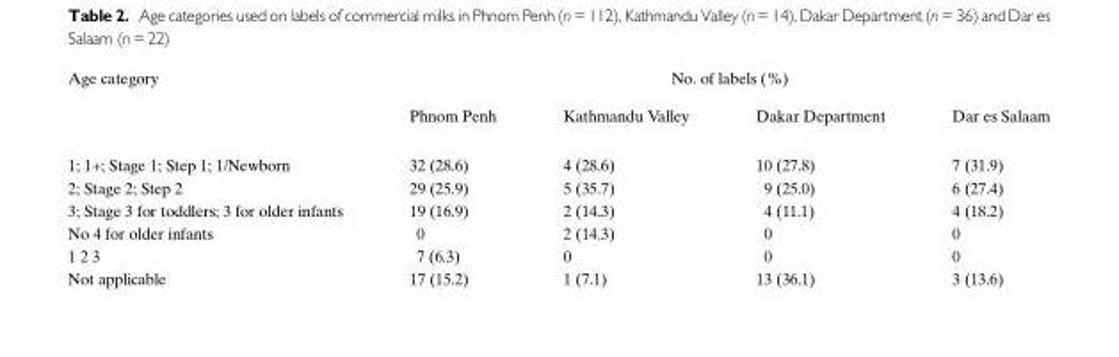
<table><thead><tr><td rowspan="2">Age category</td><td colspan="4">No. of labels (%)</td></tr><tr><td>Phnom Penh</td><td>Kathmandu Valley</td><td>Dakar Department</td><td>Dar es Salaam</td></tr></thead><tbody><tr><td>1; 1+; Stage 1; Step 1; 1/Newborn</td><td>32 (28.6)</td><td>4 (28.6)</td><td>10 (27.8)</td><td>7 (31.9)</td></tr><tr><td>2; Stage 2; Step 2</td><td>29 (25.9)</td><td>5 (35.7)</td><td>9 (25.0)</td><td>6 (27.4)</td></tr><tr><td>3; Stage 3 for toddlers; 3 for older infants</td><td>19 (16.9)</td><td>2 (14.3)</td><td>4 (11.1)</td><td>4 (18.2)</td></tr><tr><td>No 4 for older infants</td><td>0</td><td>2 (14.3)</td><td>0</td><td>0</td></tr><tr><td>1 2 3</td><td>7 (6.3)</td><td>0</td><td>0</td><td>0</td></tr><tr><td>Not applicable</td><td>17 (15.2)</td><td>1 (7.1)</td><td>13 (36.1)</td><td>3 (13.6)</td></tr></tbody></table>